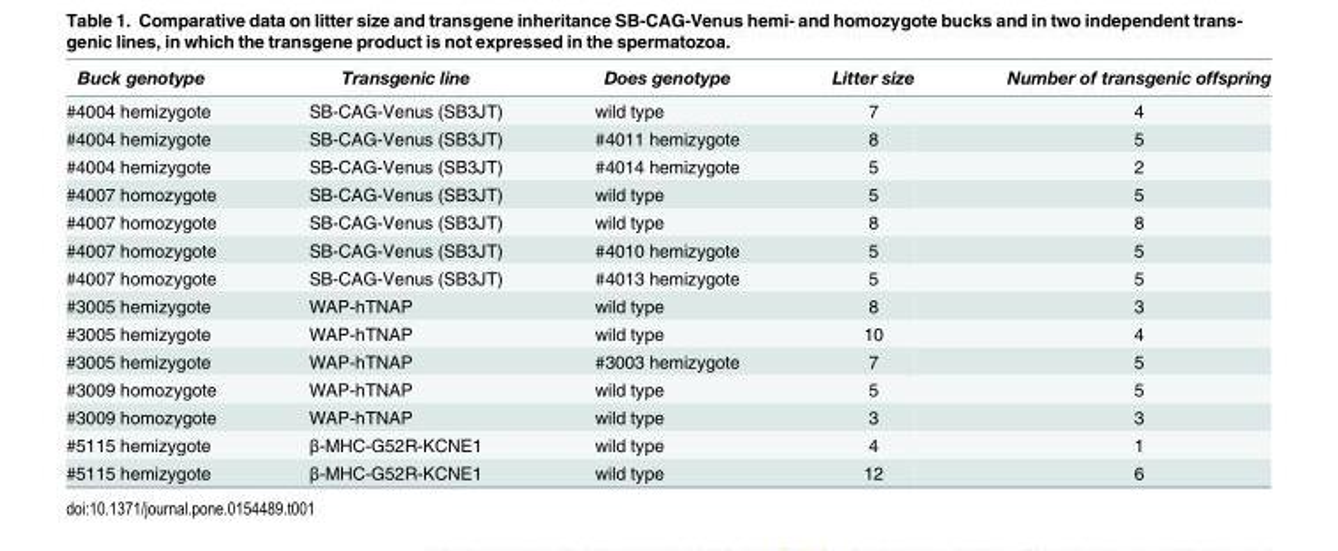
<table><thead><tr><td>Buck genotype</td><td>Transgenic line</td><td>Does genotype</td><td>Litter size</td><td>Number of transgenic offspring</td></tr></thead><tbody><tr><td>#4004 hemizygote</td><td>SB-CAG-Venus (SB3JT)</td><td>wild type</td><td>7</td><td>4</td></tr><tr><td>#4004 hemizygote</td><td>SB-CAG-Venus (SB3JT)</td><td>#4011 hemizygote</td><td>8</td><td>5</td></tr><tr><td>#4004 hemizygote</td><td>SB-CAG-Venus (SB3JT)</td><td>#4014 hemizygote</td><td>5</td><td>2</td></tr><tr><td>#4007 homozygote</td><td>SB-CAG-Venus (SB3JT)</td><td>wild type</td><td>5</td><td>5</td></tr><tr><td>#4007 homozygote</td><td>SB-CAG-Venus (SB3JT)</td><td>wild type</td><td>8</td><td>8</td></tr><tr><td>#4007 homozygote</td><td>SB-CAG-Venus (SB3JT)</td><td>#4010 hemizygote</td><td>5</td><td>5</td></tr><tr><td>#4007 homozygote</td><td>SB-CAG-Venus (SB3JT)</td><td>#4013 hemizygote</td><td>5</td><td>5</td></tr><tr><td>#3005 hemizygote</td><td>WAP-hTNAP</td><td>wild type</td><td>8</td><td>3</td></tr><tr><td>#3005 hemizygote</td><td>WAP-hTNAP</td><td>wild type</td><td>10</td><td>4</td></tr><tr><td>#3005 hemizygote</td><td>WAP-hTNAP</td><td>#3003 hemizygote</td><td>7</td><td>5</td></tr><tr><td>#3009 homozygote</td><td>WAP-hTNAP</td><td>wild type</td><td>5</td><td>5</td></tr><tr><td>#3009 homozygote</td><td>WAP-hTNAP</td><td>wild type</td><td>3</td><td>3</td></tr><tr><td>#5115 hemizygote</td><td>β-MHC-G52R-KCNE1</td><td>wild type</td><td>4</td><td>1</td></tr><tr><td>#5115 hemizygote</td><td>β-MHC-G52R-KCNE1</td><td>wild type</td><td>12</td><td>6</td></tr></tbody></table>